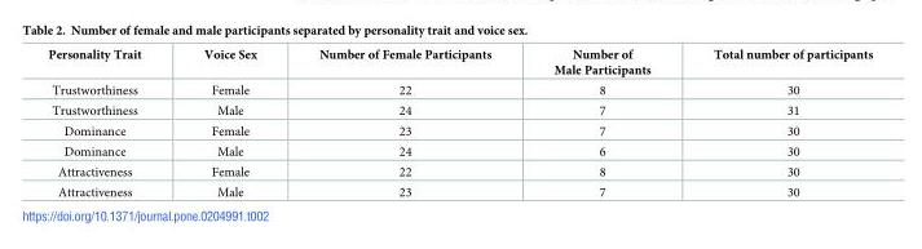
<table><thead><tr><td>Personality Trait</td><td>Voice Sex</td><td>Number of Female Participants</td><td>Number of Male Participants</td><td>Total number of participants</td></tr></thead><tbody><tr><td>Trustworthiness</td><td>Female</td><td>22</td><td>8</td><td>30</td></tr><tr><td>Trustworthiness</td><td>Male</td><td>24</td><td>7</td><td>31</td></tr><tr><td>Dominance</td><td>Female</td><td>23</td><td>7</td><td>30</td></tr><tr><td>Dominance</td><td>Male</td><td>24</td><td>6</td><td>30</td></tr><tr><td>Attractiveness</td><td>Female</td><td>22</td><td>8</td><td>30</td></tr><tr><td>Attractiveness</td><td>Male</td><td>23</td><td>7</td><td>30</td></tr></tbody></table>